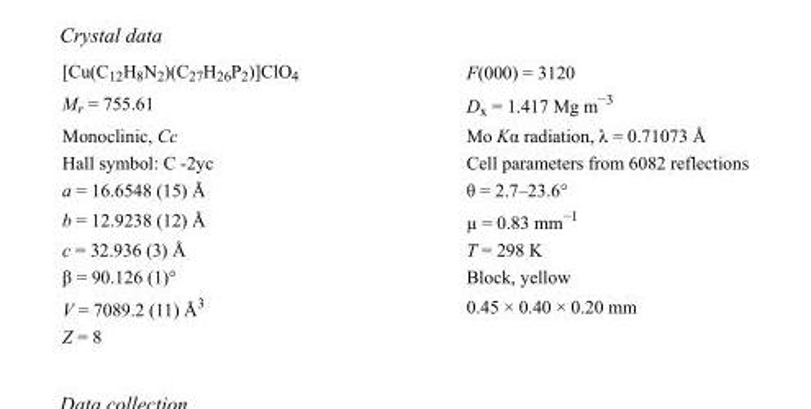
<table><tbody><tr><td>[Cu(C<sub>12</sub>H<sub>8</sub>N<sub>2</sub>)(C<sub>27</sub>H<sub>26</sub>P<sub>2</sub>)]ClO<sub>4</sub></td><td>F(000) = 3120</td></tr><tr><td>M<sub>r</sub> = 755.61</td><td>D<sub>x</sub> = 1.417 Mg m<sup>−3</sup></td></tr><tr><td>Monoclinic, Cc</td><td>Mo Kα radiation, λ = 0.71073 Å</td></tr><tr><td>Hall symbol: C -2yc</td><td>Cell parameters from 6082 reflections</td></tr><tr><td>a = 16.6548 (15) Å</td><td>θ = 2.7–23.6°</td></tr><tr><td>b = 12.9238 (12) Å</td><td>µ = 0.83 mm<sup>−1</sup></td></tr><tr><td>c = 32.936 (3) Å</td><td>T = 298 K</td></tr><tr><td>β = 90.126 (1)°</td><td>Block, yellow</td></tr><tr><td>V = 7089.2 (11) Å<sup>3</sup></td><td>0.45 × 0.40 × 0.20 mm</td></tr><tr><td>Z = 8</td><td></td></tr></tbody></table>